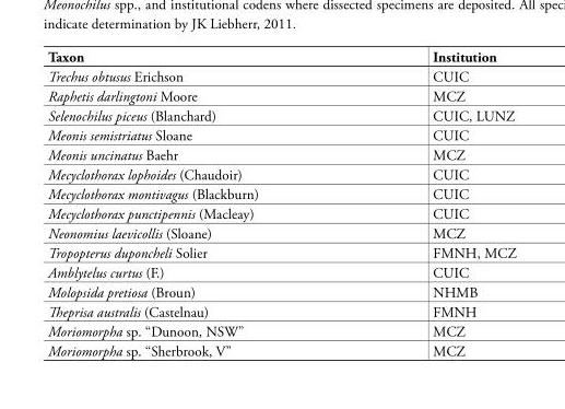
<table><thead><tr><td>Taxon</td><td>Institution</td></tr></thead><tbody><tr><td>Trechus obtusus Erichson</td><td>CUIC</td></tr><tr><td>Raphetis darlingtoni Moore</td><td>MCZ</td></tr><tr><td>Selenochilus piceus (Blanchard)</td><td>CUIC, LUNZ</td></tr><tr><td>Meonis semistriatus Sloane</td><td>CUIC</td></tr><tr><td>Meonis uncinatus Baehr</td><td>MCZ</td></tr><tr><td>Mecyclothorax lophoides (Chaudoir)</td><td>CUIC</td></tr><tr><td>Mecyclothorax montivagus (Blackburn)</td><td>CUIC</td></tr><tr><td>Mecyclothorax punctipennis (Macleay)</td><td>CUIC</td></tr><tr><td>Neonomius laevicollis (Sloane)</td><td>MCZ</td></tr><tr><td>Tropopterus duponcheli Solier</td><td>FMNH, MCZ</td></tr><tr><td>Amblytelus curtus (F.)</td><td>CUIC</td></tr><tr><td>Molopsida pretiosa (Broun)</td><td>NHMB</td></tr><tr><td>Theprisa australis (Castelnau)</td><td>FMNH</td></tr><tr><td>Moriomorpha sp. “Dunoon, NSW”</td><td>MCZ</td></tr><tr><td>Moriomorpha sp. “Sherbrook, V”</td><td>MCZ</td></tr></tbody></table>